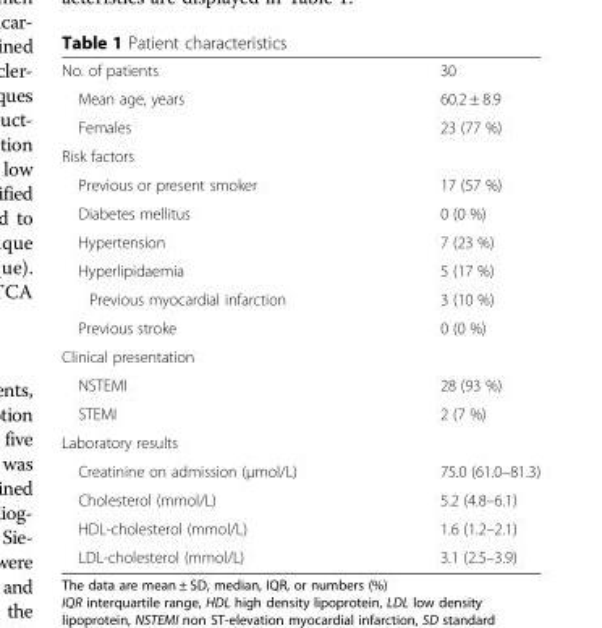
<table><tbody><tr><td>No. of patients</td><td>30</td></tr><tr><td>Mean age, years</td><td>60.2 ± 8.9</td></tr><tr><td>Females</td><td>23 (77 %)</td></tr><tr><td colspan="2">Risk factors</td></tr><tr><td>Previous or present smoker</td><td>17 (57 %)</td></tr><tr><td>Diabetes mellitus</td><td>0 (0 %)</td></tr><tr><td>Hypertension</td><td>7 (23 %)</td></tr><tr><td>Hyperlipidaemia</td><td>5 (17 %)</td></tr><tr><td>Previous myocardial infarction</td><td>3 (10 %)</td></tr><tr><td>Previous stroke</td><td>0 (0 %)</td></tr><tr><td colspan="2">Clinical presentation</td></tr><tr><td>NSTEMI</td><td>28 (93 %)</td></tr><tr><td>STEMI</td><td>2 (7 %)</td></tr><tr><td colspan="2">Laboratory results</td></tr><tr><td>Creatinine on admission (µmol/L)</td><td>75.0 (61.0–81.3)</td></tr><tr><td>Cholesterol (mmol/L)</td><td>5.2 (4.8–6.1)</td></tr><tr><td>HDL-cholesterol (mmol/L)</td><td>1.6 (1.2–2.1)</td></tr><tr><td>LDL-cholesterol (mmol/L)</td><td>3.1 (2.5–3.9)</td></tr></tbody></table>